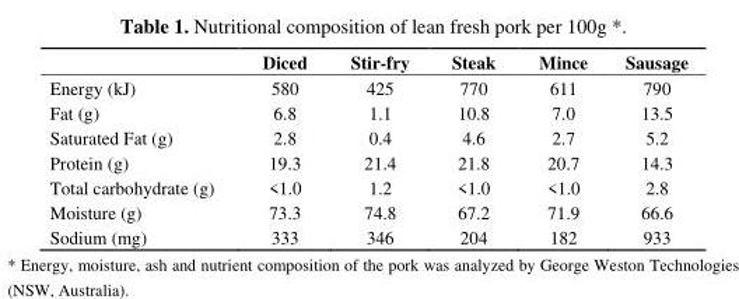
<table><thead><tr><td></td><td>Diced</td><td>Stir-fry</td><td>Steak</td><td>Mince</td><td>Sausage</td></tr></thead><tbody><tr><td>Energy (kJ)</td><td>580</td><td>425</td><td>770</td><td>611</td><td>790</td></tr><tr><td>Fat (g)</td><td>6.8</td><td>1.1</td><td>10.8</td><td>7.0</td><td>13.5</td></tr><tr><td>Saturated Fat (g)</td><td>2.8</td><td>0.4</td><td>4.6</td><td>2.7</td><td>5.2</td></tr><tr><td>Protein (g)</td><td>19.3</td><td>21.4</td><td>21.8</td><td>20.7</td><td>14.3</td></tr><tr><td>Total carbohydrate (g)</td><td>&lt;1.0</td><td>1.2</td><td>&lt;1.0</td><td>&lt;1.0</td><td>2.8</td></tr><tr><td>Moisture (g)</td><td>73.3</td><td>74.8</td><td>67.2</td><td>71.9</td><td>66.6</td></tr><tr><td>Sodium (mg)</td><td>333</td><td>346</td><td>204</td><td>182</td><td>933</td></tr></tbody></table>